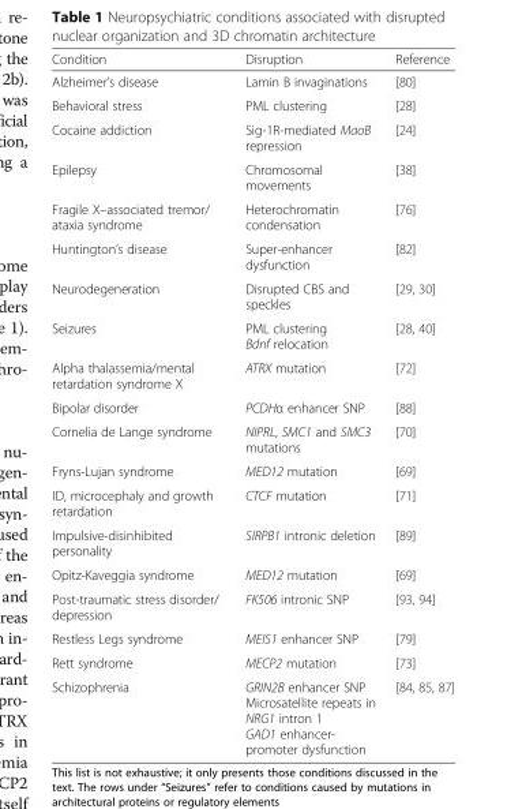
<table><thead><tr><td>Condition</td><td>Disruption</td><td>Reference</td></tr></thead><tbody><tr><td>Alzheimer’s disease</td><td>Lamin B invaginations</td><td>[80]</td></tr><tr><td>Behavioral stress</td><td>PML clustering</td><td>[28]</td></tr><tr><td>Cocaine addiction</td><td>Sig-1R-mediated MaoB repression</td><td>[24]</td></tr><tr><td>Epilepsy</td><td>Chromosomal movements</td><td>[38]</td></tr><tr><td>Fragile X–associated tremor/ ataxia syndrome</td><td>Heterochromatin condensation</td><td>[76]</td></tr><tr><td>Huntington’s disease</td><td>Super-enhancer dysfunction</td><td>[82]</td></tr><tr><td>Neurodegeneration</td><td>Disrupted CBS and speckles</td><td>[29, 30]</td></tr><tr><td>Seizures</td><td>PML clustering Bdnf relocation</td><td>[28, 40]</td></tr><tr><td>Alpha thalassemia/mental retardation syndrome X</td><td>ATRX mutation</td><td>[72]</td></tr><tr><td>Bipolar disorder</td><td>PCDHα enhancer SNP</td><td>[88]</td></tr><tr><td>Cornelia de Lange syndrome</td><td>NIPRL, SMC1 and SMC3 mutations</td><td>[70]</td></tr><tr><td>Fryns-Lujan syndrome</td><td>MED12 mutation</td><td>[69]</td></tr><tr><td>ID, microcephaly and growth retardation</td><td>CTCF mutation</td><td>[71]</td></tr><tr><td>Impulsive-disinhibited personality</td><td>SIRPB1 intronic deletion</td><td>[89]</td></tr><tr><td>Opitz-Kaveggia syndrome</td><td>MED12 mutation</td><td>[69]</td></tr><tr><td>Post-traumatic stress disorder/ depression</td><td>FK506 intronic SNP</td><td>[93, 94]</td></tr><tr><td>Restless Legs syndrome</td><td>MEIS1 enhancer SNP</td><td>[79]</td></tr><tr><td>Rett syndrome</td><td>MECP2 mutation</td><td>[73]</td></tr><tr><td>Schizophrenia</td><td>GRIN2B enhancer SNP Microsatellite repeats in NRG1 intron 1 GAD1 enhancer- promoter dysfunction</td><td>[84, 85, 87]</td></tr></tbody></table>